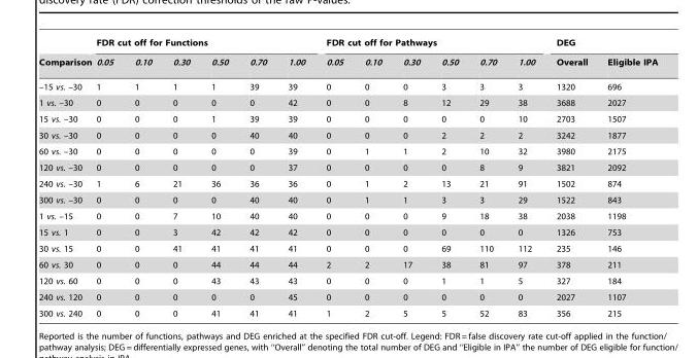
<table><thead><tr><td rowspan="2">Comparison</td><td colspan="6">FDR cut off for Functions</td><td colspan="6">FDR cut off for Pathways</td><td colspan="2">DEG</td></tr><tr><td>0.05</td><td>0.10</td><td>0.30</td><td>0.50</td><td>0.70</td><td>1.00</td><td>0.05</td><td>0.10</td><td>0.30</td><td>0.50</td><td>0.70</td><td>1.00</td><td>Overall</td><td>Eligible IPA</td></tr></thead><tbody><tr><td>–15 vs. –30</td><td>1</td><td>1</td><td>1</td><td>1</td><td>39</td><td>39</td><td>0</td><td>0</td><td>0</td><td>3</td><td>3</td><td>3</td><td>1320</td><td>696</td></tr><tr><td>1 vs. –30</td><td>0</td><td>0</td><td>0</td><td>0</td><td>0</td><td>42</td><td>0</td><td>0</td><td>8</td><td>12</td><td>29</td><td>38</td><td>3688</td><td>2027</td></tr><tr><td>15 vs. –30</td><td>0</td><td>0</td><td>0</td><td>1</td><td>39</td><td>39</td><td>0</td><td>0</td><td>0</td><td>0</td><td>0</td><td>10</td><td>2703</td><td>1507</td></tr><tr><td>30 vs. –30</td><td>0</td><td>0</td><td>0</td><td>0</td><td>40</td><td>40</td><td>0</td><td>0</td><td>0</td><td>2</td><td>2</td><td>2</td><td>3242</td><td>1877</td></tr><tr><td>60 vs. –30</td><td>0</td><td>0</td><td>0</td><td>0</td><td>0</td><td>39</td><td>0</td><td>1</td><td>1</td><td>2</td><td>10</td><td>32</td><td>3980</td><td>2175</td></tr><tr><td>120 vs. –30</td><td>0</td><td>0</td><td>0</td><td>0</td><td>0</td><td>37</td><td>0</td><td>0</td><td>0</td><td>0</td><td>8</td><td>9</td><td>3821</td><td>2092</td></tr><tr><td>240 vs. –30</td><td>1</td><td>6</td><td>21</td><td>36</td><td>36</td><td>36</td><td>0</td><td>1</td><td>2</td><td>13</td><td>21</td><td>91</td><td>1502</td><td>874</td></tr><tr><td>300 vs. –30</td><td>0</td><td>0</td><td>0</td><td>0</td><td>40</td><td>40</td><td>0</td><td>1</td><td>1</td><td>3</td><td>3</td><td>29</td><td>1522</td><td>843</td></tr><tr><td>1 vs. –15</td><td>0</td><td>0</td><td>7</td><td>10</td><td>40</td><td>40</td><td>0</td><td>0</td><td>0</td><td>9</td><td>18</td><td>38</td><td>2038</td><td>1198</td></tr><tr><td>15 vs. 1</td><td>0</td><td>0</td><td>3</td><td>42</td><td>42</td><td>42</td><td>0</td><td>0</td><td>0</td><td>0</td><td>0</td><td>0</td><td>1326</td><td>753</td></tr><tr><td>30 vs. 15</td><td>0</td><td>0</td><td>41</td><td>41</td><td>41</td><td>41</td><td>0</td><td>0</td><td>0</td><td>69</td><td>110</td><td>112</td><td>235</td><td>146</td></tr><tr><td>60 vs. 30</td><td>0</td><td>0</td><td>0</td><td>44</td><td>44</td><td>44</td><td>2</td><td>2</td><td>17</td><td>38</td><td>81</td><td>97</td><td>378</td><td>211</td></tr><tr><td>120 vs. 60</td><td>0</td><td>0</td><td>0</td><td>43</td><td>43</td><td>43</td><td>0</td><td>0</td><td>0</td><td>1</td><td>1</td><td>5</td><td>327</td><td>184</td></tr><tr><td>240 vs. 120</td><td>0</td><td>0</td><td>0</td><td>0</td><td>0</td><td>45</td><td>0</td><td>0</td><td>0</td><td>0</td><td>0</td><td>0</td><td>2027</td><td>1107</td></tr><tr><td>300 vs. 240</td><td>0</td><td>0</td><td>0</td><td>41</td><td>41</td><td>41</td><td>1</td><td>2</td><td>5</td><td>5</td><td>52</td><td>83</td><td>356</td><td>215</td></tr></tbody></table>